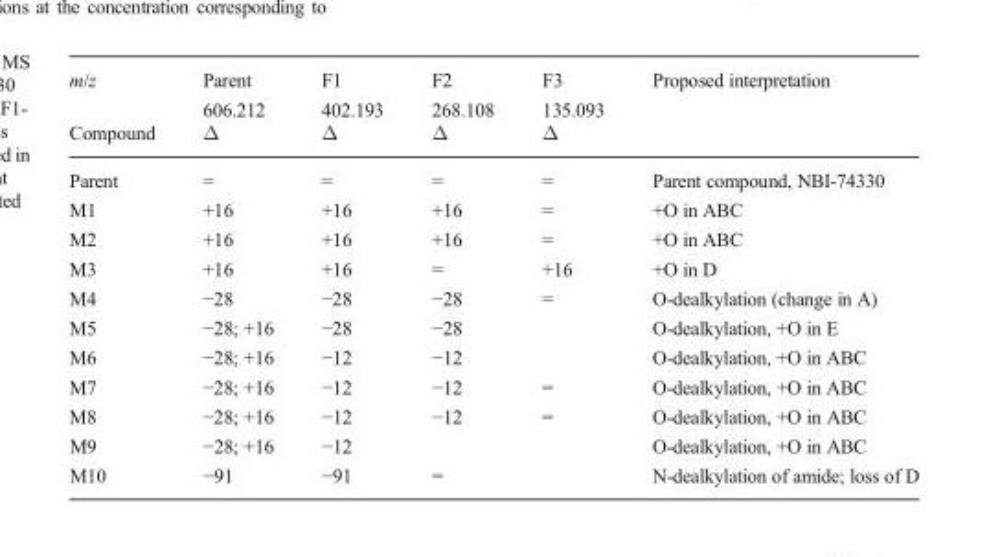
<table><thead><tr><td rowspan="2">m/z Compound</td><td rowspan="2">Parent 606.212 Δ</td><td rowspan="2">F1 402.193 Δ</td><td rowspan="2">F2 268.108 Δ</td><td rowspan="2">F3 135.093 Δ</td><td rowspan="2">Proposed interpretation</td></tr><tr></tr></thead><tbody><tr><td>Parent</td><td>=</td><td>=</td><td>=</td><td>=</td><td>Parent compound, NBI-74330</td></tr><tr><td>M1</td><td>+16</td><td>+16</td><td>+16</td><td>=</td><td>+O in ABC</td></tr><tr><td>M2</td><td>+16</td><td>+16</td><td>+16</td><td>=</td><td>+O in ABC</td></tr><tr><td>M3</td><td>+16</td><td>+16</td><td>=</td><td>+16</td><td>+O in D</td></tr><tr><td>M4</td><td>−28</td><td>−28</td><td>−28</td><td>=</td><td>O-dealkylation (change in A)</td></tr><tr><td>M5</td><td>−28; +16</td><td>−28</td><td>−28</td><td></td><td>O-dealkylation, +O in E</td></tr><tr><td>M6</td><td>−28; +16</td><td>−12</td><td>−12</td><td></td><td>O-dealkylation, +O in ABC</td></tr><tr><td>M7</td><td>−28; +16</td><td>−12</td><td>−12</td><td>=</td><td>O-dealkylation, +O in ABC</td></tr><tr><td>M8</td><td>−28; +16</td><td>−12</td><td>−12</td><td>=</td><td>O-dealkylation, +O in ABC</td></tr><tr><td>M9</td><td>−28; +16</td><td>−12</td><td></td><td></td><td>O-dealkylation, +O in ABC</td></tr><tr><td>M10</td><td>−91</td><td>−91</td><td>=</td><td></td><td>N-dealkylation of amide; loss of D</td></tr></tbody></table>